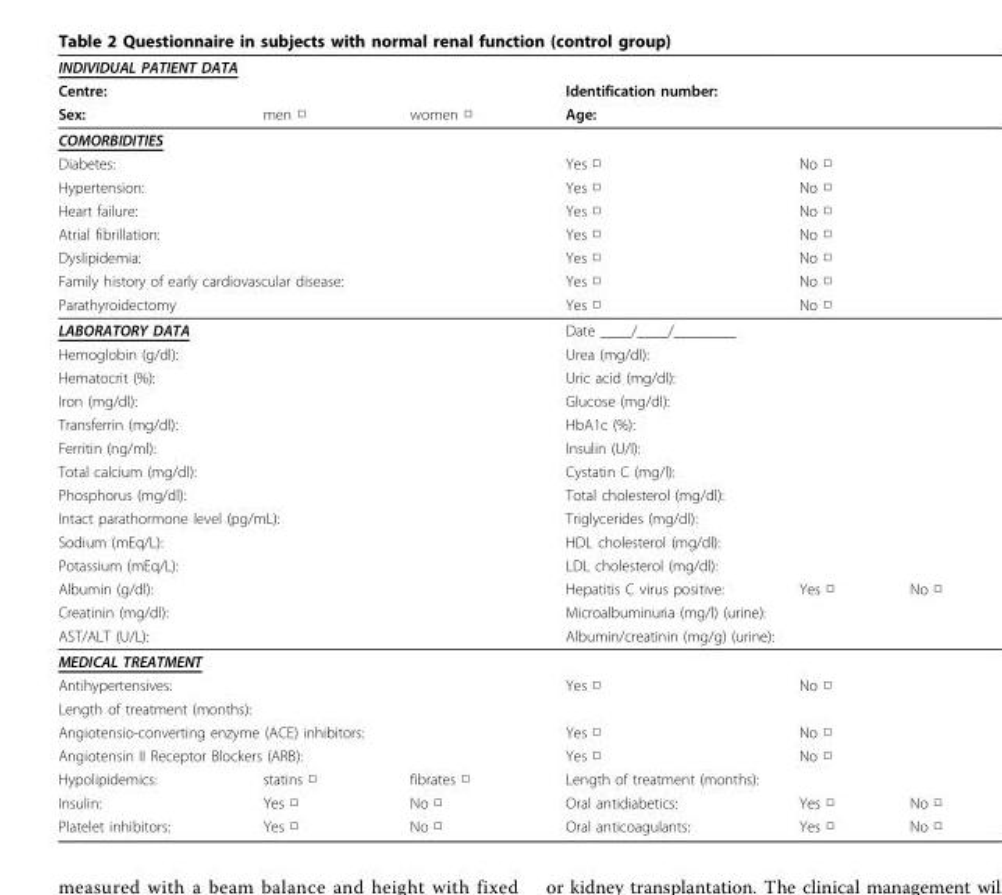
<table><thead><tr><td colspan="6">INDIVIDUAL PATIENT DATA</td></tr><tr><td colspan="3">Centre:</td><td rowspan="2" colspan="3">Identification number: Age:</td></tr><tr><td>Sex:</td><td>men □</td><td>women □</td></tr></thead><tbody><tr><td colspan="6">COMORBIDITIES</td></tr><tr><td colspan="3">Diabetes:</td><td>Yes □</td><td colspan="2">No □</td></tr><tr><td colspan="3">Hypertension:</td><td>Yes □</td><td colspan="2">No □</td></tr><tr><td colspan="3">Heart failure:</td><td>Yes □</td><td colspan="2">No □</td></tr><tr><td colspan="3">Atrial fibrillation:</td><td>Yes □</td><td colspan="2">No □</td></tr><tr><td colspan="3">Dyslipidemia:</td><td>Yes □</td><td colspan="2">No □</td></tr><tr><td colspan="3">Family history of early cardiovascular disease:</td><td>Yes □</td><td colspan="2">No □</td></tr><tr><td colspan="3">Parathyroidectomy</td><td>Yes □</td><td colspan="2">No □</td></tr><tr><td colspan="3">LABORATORY DATA</td><td colspan="3">Date ____/____/________</td></tr><tr><td colspan="3">Hemoglobin (g/dl):</td><td colspan="3">Urea (mg/dl):</td></tr><tr><td colspan="3">Hematocrit (%):</td><td colspan="3">Uric acid (mg/dl):</td></tr><tr><td colspan="3">Iron (mg/dl):</td><td colspan="3">Glucose (mg/dl):</td></tr><tr><td colspan="3">Transferrin (mg/dl):</td><td colspan="3">HbA1c (%):</td></tr><tr><td colspan="3">Ferritin (ng/ml):</td><td colspan="3">Insulin (U/l):</td></tr><tr><td colspan="3">Total calcium (mg/dl):</td><td colspan="3">Cystatin C (mg/l):</td></tr><tr><td colspan="3">Phosphorus (mg/dl):</td><td colspan="3">Total cholesterol (mg/dl):</td></tr><tr><td colspan="3">Intact parathormone level (pg/mL):</td><td colspan="3">Triglycerides (mg/dl):</td></tr><tr><td colspan="3">Sodium (mEq/L):</td><td colspan="3">HDL cholesterol (mg/dl):</td></tr><tr><td colspan="3">Potassium (mEq/L):</td><td colspan="3">LDL cholesterol (mg/dl):</td></tr><tr><td colspan="3">Albumin (g/dl):</td><td>Hepatitis C virus positive:</td><td>Yes □</td><td>No □</td></tr><tr><td colspan="3">Creatinin (mg/dl):</td><td colspan="3">Microalbuminuria (mg/l) (urine):</td></tr><tr><td colspan="3">AST/ALT (U/L):</td><td colspan="3">Albumin/creatinin (mg/g) (urine):</td></tr><tr><td colspan="6">MEDICAL TREATMENT</td></tr><tr><td colspan="3">Antihypertensives:</td><td>Yes □</td><td colspan="2">No □</td></tr><tr><td colspan="6">Length of treatment (months):</td></tr><tr><td colspan="3">Angiotensio-converting enzyme (ACE) inhibitors:</td><td>Yes □</td><td colspan="2">No □</td></tr><tr><td colspan="3">Angiotensin II Receptor Blockers (ARB):</td><td>Yes □</td><td colspan="2">No □</td></tr><tr><td>Hypolipidemics:</td><td>statins □</td><td>fibrates □</td><td colspan="3">Length of treatment (months):</td></tr><tr><td>Insulin:</td><td>Yes □</td><td>No □</td><td>Oral antidiabetics:</td><td>Yes □</td><td>No □</td></tr><tr><td>Platelet inhibitors:</td><td>Yes □</td><td>No □</td><td>Oral anticoagulants:</td><td>Yes □</td><td>No □</td></tr></tbody></table>